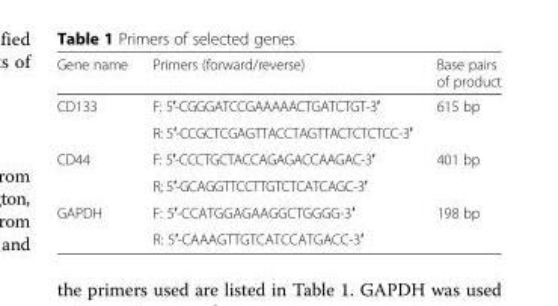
<table><thead><tr><td>Gene name</td><td>Primers (forward/reverse)</td><td>Base pairs of product</td></tr></thead><tbody><tr><td rowspan="2">CD133</td><td>F: 5′-CGGGATCCGAAAAACTGATCTGT-3′</td><td rowspan="2">615 bp</td></tr><tr><td>R: 5′-CCGCTCGAGTTACCTAGTTACTCTCTCC-3′</td></tr><tr><td rowspan="2">CD44</td><td>F: 5′-CCCTGCTACCAGAGACCAAGAC-3′</td><td rowspan="2">401 bp</td></tr><tr><td>R; 5′-GCAGGTTCCTTGTCTCATCAGC-3′</td></tr><tr><td rowspan="2">GAPDH</td><td>F: 5′-CCATGGAGAAGGCTGGGG-3′</td><td rowspan="2">198 bp</td></tr><tr><td>R: 5′-CAAAGTTGTCATCCATGACC-3′</td></tr></tbody></table>